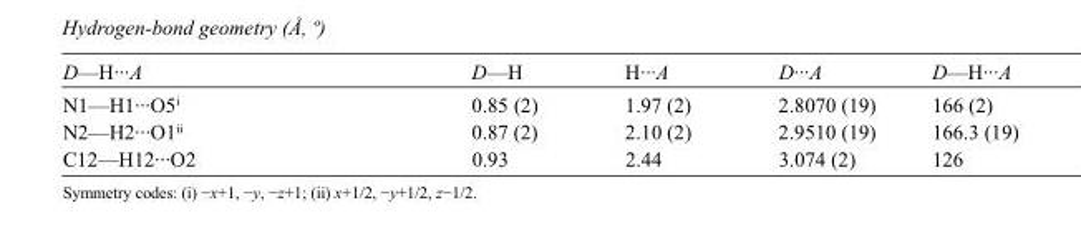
<table><tbody><tr><td>D—H···A</td><td>D—H</td><td>H···A</td><td>D···A</td><td>D—H···A</td></tr><tr><td>N1—H1···O5<sup>i</sup></td><td>0.85 (2)</td><td>1.97 (2)</td><td>2.8070 (19)</td><td>166 (2)</td></tr><tr><td>N2—H2···O1<sup>ii</sup></td><td>0.87 (2)</td><td>2.10 (2)</td><td>2.9510 (19)</td><td>166.3 (19)</td></tr><tr><td>C12—H12···O2</td><td>0.93</td><td>2.44</td><td>3.074 (2)</td><td>126</td></tr></tbody></table>